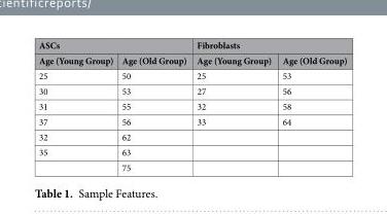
<table><thead><tr><td colspan="2">ASCs</td><td colspan="2">Fibroblasts</td></tr><tr><td>Age (Young Group)</td><td>Age (Old Group)</td><td>Age (Young Group)</td><td>Age (Old Group)</td></tr></thead><tbody><tr><td>25</td><td>50</td><td>25</td><td>53</td></tr><tr><td>30</td><td>53</td><td>27</td><td>56</td></tr><tr><td>31</td><td>55</td><td>32</td><td>58</td></tr><tr><td>37</td><td>56</td><td>33</td><td>64</td></tr><tr><td>32</td><td>62</td><td></td><td></td></tr><tr><td rowspan="2">35</td><td>63</td><td></td><td></td></tr><tr><td>75</td><td></td><td></td></tr></tbody></table>